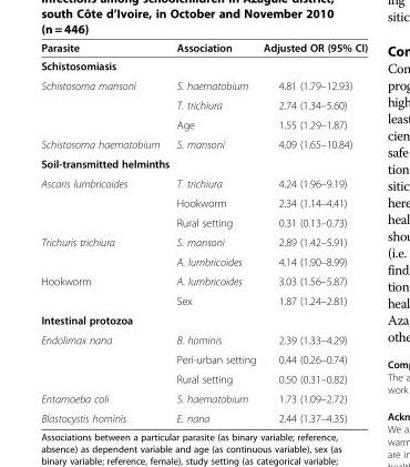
<table><thead><tr><td>Parasite</td><td>Association</td><td>Adjusted OR (95% CI)</td></tr></thead><tbody><tr><td colspan="3">Schistosomiasis</td></tr><tr><td rowspan="3">Schistosoma mansoni</td><td>S. haematobium</td><td>4.81 (1.79–12.93)</td></tr><tr><td>T. trichiura</td><td>2.74 (1.34–5.60)</td></tr><tr><td>Age</td><td>1.55 (1.29–1.87)</td></tr><tr><td>Schistosoma haematobium</td><td>S. mansoni</td><td>4.09 (1.65–10.84)</td></tr><tr><td colspan="3">Soil-transmitted helminths</td></tr><tr><td rowspan="3">Ascaris lumbricoides</td><td>T. trichiura</td><td>4.24 (1.96–9.19)</td></tr><tr><td>Hookworm</td><td>2.34 (1.14–4.41)</td></tr><tr><td>Rural setting</td><td>0.31 (0.13–0.73)</td></tr><tr><td rowspan="2">Trichuris trichiura</td><td>S. mansoni</td><td>2.89 (1.42–5.91)</td></tr><tr><td>A. lumbricoides</td><td>4.14 (1.90–8.99)</td></tr><tr><td rowspan="2">Hookworm</td><td>A. lumbricoides</td><td>3.03 (1.56–5.87)</td></tr><tr><td>Sex</td><td>1.87 (1.24–2.81)</td></tr><tr><td colspan="3">Intestinal protozoa</td></tr><tr><td rowspan="3">Endolimax nana</td><td>B. hominis</td><td>2.39 (1.33–4.29)</td></tr><tr><td>Peri-urban setting</td><td>0.44 (0.26–0.74)</td></tr><tr><td>Rural setting</td><td>0.50 (0.31–0.82)</td></tr><tr><td>Entamoeba coli</td><td>S. haematobium</td><td>1.73 (1.09–2.72)</td></tr><tr><td>Blastocystis hominis</td><td>E. nana</td><td>2.44 (1.37–4.35)</td></tr></tbody></table>